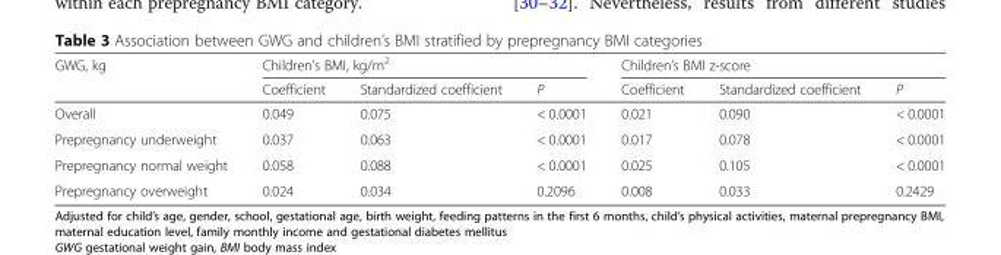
<table><thead><tr><td rowspan="2">GWG, kg</td><td colspan="3">Children’s BMI, kg/m<sup>2</sup></td><td colspan="3">Children’s BMI z-score</td></tr><tr><td>Coefficient</td><td>Standardized coefficient</td><td>P</td><td>Coefficient</td><td>Standardized coefficient</td><td>P</td></tr></thead><tbody><tr><td>Overall</td><td>0.049</td><td>0.075</td><td>&lt; 0.0001</td><td>0.021</td><td>0.090</td><td>&lt; 0.0001</td></tr><tr><td>Prepregnancy underweight</td><td>0.037</td><td>0.063</td><td>&lt; 0.0001</td><td>0.017</td><td>0.078</td><td>&lt; 0.0001</td></tr><tr><td>Prepregnancy normal weight</td><td>0.058</td><td>0.088</td><td>&lt; 0.0001</td><td>0.025</td><td>0.105</td><td>&lt; 0.0001</td></tr><tr><td>Prepregnancy overweight</td><td>0.024</td><td>0.034</td><td>0.2096</td><td>0.008</td><td>0.033</td><td>0.2429</td></tr></tbody></table>